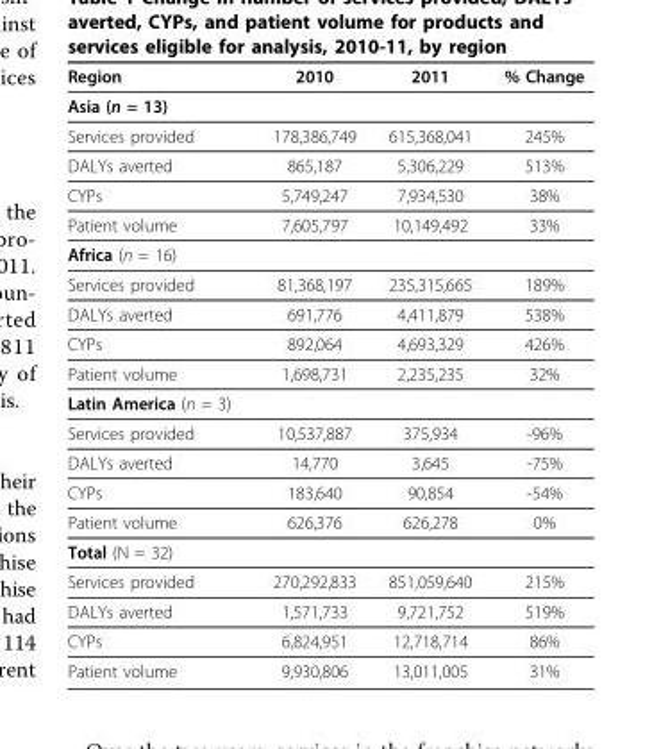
<table><thead><tr><td>Region</td><td>2010</td><td>2011</td><td>% Change</td></tr></thead><tbody><tr><td colspan="4">Asia (n = 13)</td></tr><tr><td>Services provided</td><td>178,386,749</td><td>615,368,041</td><td>245%</td></tr><tr><td>DALYs averted</td><td>865,187</td><td>5,306,229</td><td>513%</td></tr><tr><td>CYPs</td><td>5,749,247</td><td>7,934,530</td><td>38%</td></tr><tr><td>Patient volume</td><td>7,605,797</td><td>10,149,492</td><td>33%</td></tr><tr><td colspan="4">Africa (n = 16)</td></tr><tr><td>Services provided</td><td>81,368,197</td><td>235,315,665</td><td>189%</td></tr><tr><td>DALYs averted</td><td>691,776</td><td>4,411,879</td><td>538%</td></tr><tr><td>CYPs</td><td>892,064</td><td>4,693,329</td><td>426%</td></tr><tr><td>Patient volume</td><td>1,698,731</td><td>2,235,235</td><td>32%</td></tr><tr><td colspan="4">Latin America (n = 3)</td></tr><tr><td>Services provided</td><td>10,537,887</td><td>375,934</td><td>-96%</td></tr><tr><td>DALYs averted</td><td>14,770</td><td>3,645</td><td>-75%</td></tr><tr><td>CYPs</td><td>183,640</td><td>90,854</td><td>-54%</td></tr><tr><td>Patient volume</td><td>626,376</td><td>626,278</td><td>0%</td></tr><tr><td colspan="4">Total (N = 32)</td></tr><tr><td>Services provided</td><td>270,292,833</td><td>851,059,640</td><td>215%</td></tr><tr><td>DALYs averted</td><td>1,571,733</td><td>9,721,752</td><td>519%</td></tr><tr><td>CYPs</td><td>6,824,951</td><td>12,718,714</td><td>86%</td></tr><tr><td>Patient volume</td><td>9,930,806</td><td>13,011,005</td><td>31%</td></tr></tbody></table>